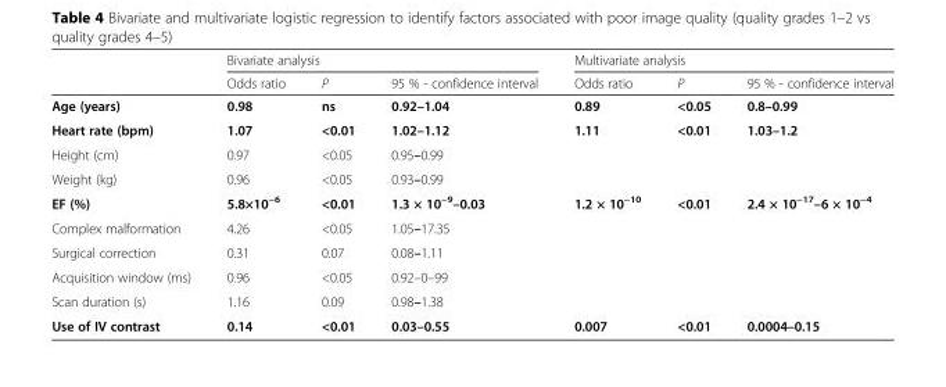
<table><thead><tr><td rowspan="2"></td><td colspan="3">Bivariate analysis</td><td colspan="3">Multivariate analysis</td></tr><tr><td>Odds ratio</td><td>P</td><td>95 % - confidence interval</td><td>Odds ratio</td><td>P</td><td>95 % - confidence interval</td></tr></thead><tbody><tr><td>Age (years)</td><td>0.98</td><td>ns</td><td>0.92–1.04</td><td>0.89</td><td>&lt;0.05</td><td>0.8–0.99</td></tr><tr><td>Heart rate (bpm)</td><td>1.07</td><td>&lt;0.01</td><td>1.02–1.12</td><td>1.11</td><td>&lt;0.01</td><td>1.03–1.2</td></tr><tr><td>Height (cm)</td><td>0.97</td><td>&lt;0.05</td><td>0.95–0.99</td><td></td><td></td><td></td></tr><tr><td>Weight (kg)</td><td>0.96</td><td>&lt;0.05</td><td>0.93–0.99</td><td></td><td></td><td></td></tr><tr><td>EF (%)</td><td>5.8×10<sup>−6</sup></td><td>&lt;0.01</td><td>1.3 × 10<sup>−9</sup>–0.03</td><td>1.2 × 10<sup>−10</sup></td><td>&lt;0.01</td><td>2.4 × 10<sup>−17</sup>–6 × 10<sup>−4</sup></td></tr><tr><td>Complex malformation</td><td>4.26</td><td>&lt;0.05</td><td>1.05–17.35</td><td></td><td></td><td></td></tr><tr><td>Surgical correction</td><td>0.31</td><td>0.07</td><td>0.08–1.11</td><td></td><td></td><td></td></tr><tr><td>Acquisition window (ms)</td><td>0.96</td><td>&lt;0.05</td><td>0.92–0–99</td><td></td><td></td><td></td></tr><tr><td>Scan duration (s)</td><td>1.16</td><td>0.09</td><td>0.98–1.38</td><td></td><td></td><td></td></tr><tr><td>Use of IV contrast</td><td>0.14</td><td>&lt;0.01</td><td>0.03–0.55</td><td>0.007</td><td>&lt;0.01</td><td>0.0004–0.15</td></tr></tbody></table>